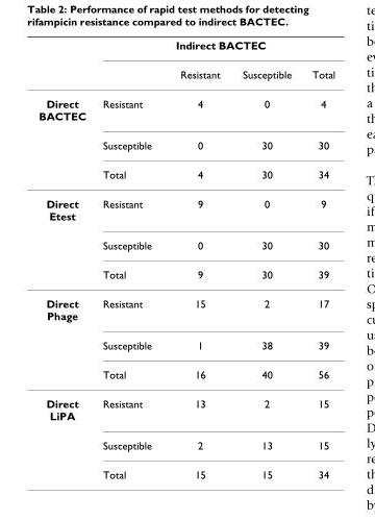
<table><thead><tr><td rowspan="2"></td><td colspan="4">Indirect BACTEC</td></tr><tr><td></td><td>Resistant</td><td>Susceptible</td><td>Total</td></tr></thead><tbody><tr><td rowspan="3">Direct BACTEC</td><td>Resistant</td><td>4</td><td>0</td><td>4</td></tr><tr><td>Susceptible</td><td>0</td><td>30</td><td>30</td></tr><tr><td>Total</td><td>4</td><td>30</td><td>34</td></tr><tr><td rowspan="3">Direct Etest</td><td>Resistant</td><td>9</td><td>0</td><td>9</td></tr><tr><td>Susceptible</td><td>0</td><td>30</td><td>30</td></tr><tr><td>Total</td><td>9</td><td>30</td><td>39</td></tr><tr><td rowspan="3">Direct Phage</td><td>Resistant</td><td>15</td><td>2</td><td>17</td></tr><tr><td>Susceptible</td><td>1</td><td>38</td><td>39</td></tr><tr><td>Total</td><td>16</td><td>40</td><td>56</td></tr><tr><td rowspan="3">Direct LiPA</td><td>Resistant</td><td>13</td><td>2</td><td>15</td></tr><tr><td>Susceptible</td><td>2</td><td>13</td><td>15</td></tr><tr><td>Total</td><td>15</td><td>15</td><td>34</td></tr></tbody></table>